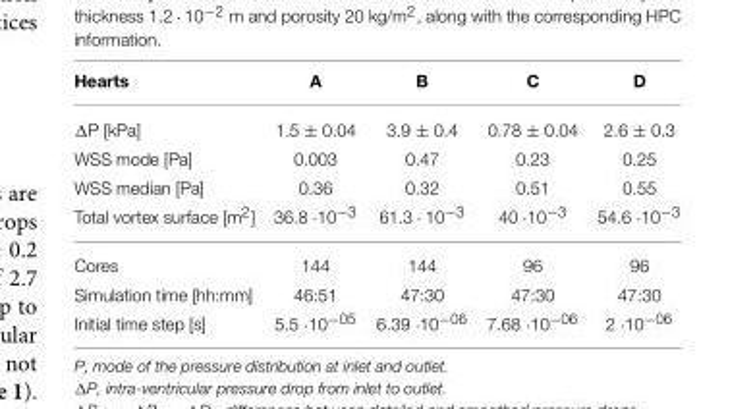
<table><thead><tr><td>Hearts</td><td>A</td><td>B</td><td>C</td><td>D</td></tr></thead><tbody><tr><td>ΔP [kPa]</td><td>1.5 ± 0.04</td><td>3.9 ± 0.4</td><td>0.78 ± 0.04</td><td>2.6 ± 0.3</td></tr><tr><td>WSS mode [Pa]</td><td>0.003</td><td>0.47</td><td>0.23</td><td>0.25</td></tr><tr><td>WSS median [Pa]</td><td>0.36</td><td>0.32</td><td>0.51</td><td>0.55</td></tr><tr><td>Total vortex surface [m<sup>2</sup>]</td><td>36.8 ·10<sup>−3</sup></td><td>61.3 · 10<sup>−3</sup></td><td>40 ·10<sup>−3</sup></td><td>54.6 ·10<sup>−3</sup></td></tr><tr><td>Cores</td><td>144</td><td>144</td><td>96</td><td>96</td></tr><tr><td>Simulation time [hh:mm]</td><td>46:51</td><td>47:30</td><td>47:30</td><td>47:30</td></tr><tr><td>Initial time step [s]</td><td>5.5 ·10<sup>−05</sup></td><td>6.39 ·10<sup>−06</sup></td><td>7.68 ·10<sup>−06</sup></td><td>2 ·10<sup>−06</sup></td></tr></tbody></table>